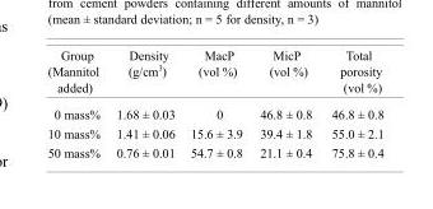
<table><thead><tr><td>Group (Mannitol added)</td><td>Density (g/cm<sup>3</sup>)</td><td>MacP (vol %)</td><td>MicP (vol %)</td><td>Total porosity (vol %)</td></tr></thead><tbody><tr><td>0 mass%</td><td>1.68 ± 0.03</td><td>0</td><td>46.8 ± 0.8</td><td>46.8 ± 0.8</td></tr><tr><td>10 mass%</td><td>1.41 ± 0.06</td><td>15.6 ± 3.9</td><td>39.4 ± 1.8</td><td>55.0 ± 2.1</td></tr><tr><td>50 mass%</td><td>0.76 ± 0.01</td><td>54.7 ± 0.8</td><td>21.1 ± 0.4</td><td>75.8 ± 0.4</td></tr></tbody></table>